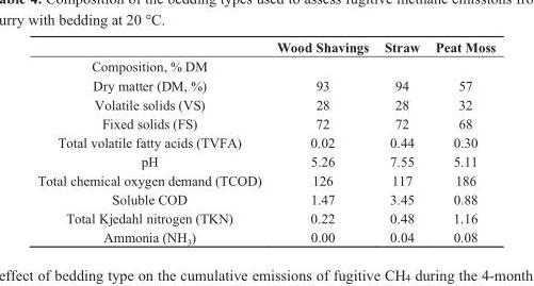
<table><thead><tr><td></td><td>Wood Shavings</td><td>Straw</td><td>Peat Moss</td></tr></thead><tbody><tr><td colspan="4">Composition, % DM</td></tr><tr><td>Dry matter (DM, %)</td><td>93</td><td>94</td><td>57</td></tr><tr><td>Volatile solids (VS)</td><td>28</td><td>28</td><td>32</td></tr><tr><td>Fixed solids (FS)</td><td>72</td><td>72</td><td>68</td></tr><tr><td>Total volatile fatty acids (TVFA)</td><td>0.02</td><td>0.44</td><td>0.30</td></tr><tr><td>pH</td><td>5.26</td><td>7.55</td><td>5.11</td></tr><tr><td>Total chemical oxygen demand (TCOD)</td><td>126</td><td>117</td><td>186</td></tr><tr><td>Soluble COD</td><td>1.47</td><td>3.45</td><td>0.88</td></tr><tr><td>Total Kjedahl nitrogen (TKN)</td><td>0.22</td><td>0.48</td><td>1.16</td></tr><tr><td>Ammonia (NH<sub>3</sub>)</td><td>0.00</td><td>0.04</td><td>0.08</td></tr></tbody></table>